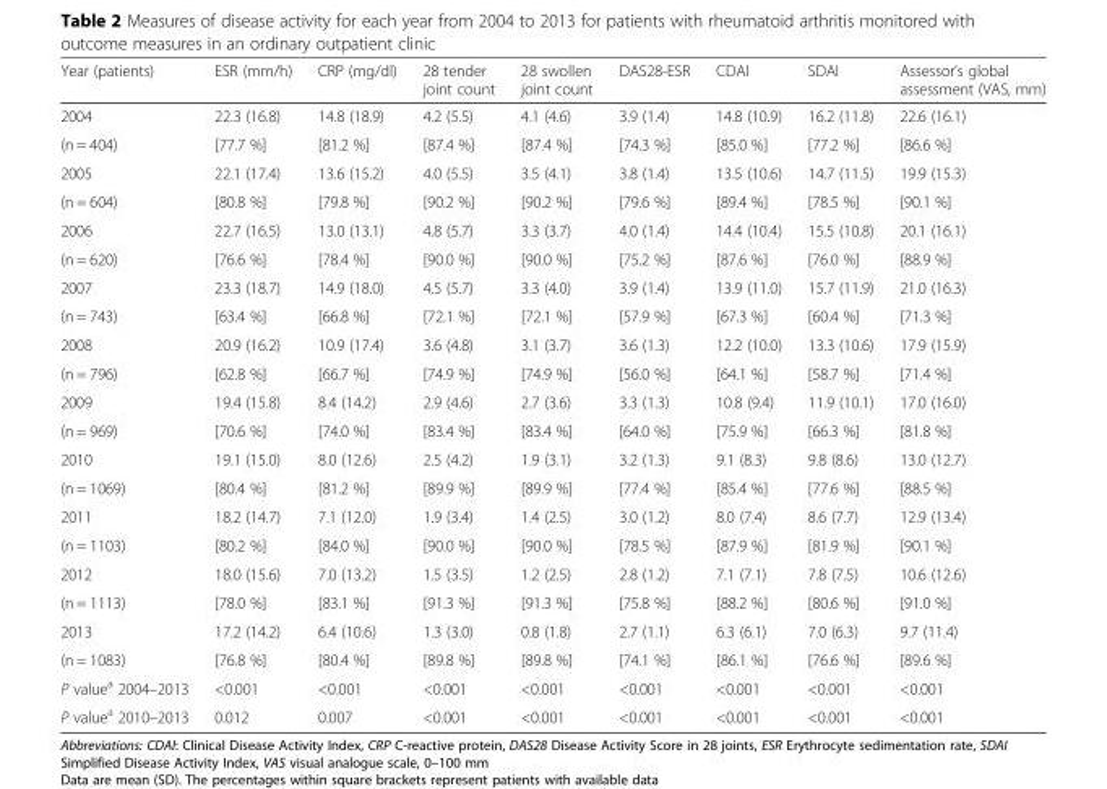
<table><thead><tr><td>Year (patients)</td><td>ESR (mm/h)</td><td>CRP (mg/dl)</td><td>28 tender joint count</td><td>28 swollen joint count</td><td>DAS28-ESR</td><td>CDAI</td><td>SDAI</td><td>Assessor’s global assessment (VAS, mm)</td></tr></thead><tbody><tr><td>2004</td><td>22.3 (16.8)</td><td>14.8 (18.9)</td><td>4.2 (5.5)</td><td>4.1 (4.6)</td><td>3.9 (1.4)</td><td>14.8 (10.9)</td><td>16.2 (11.8)</td><td>22.6 (16.1)</td></tr><tr><td>(n = 404)</td><td>[77.7 %]</td><td>[81.2 %]</td><td>[87.4 %]</td><td>[87.4 %]</td><td>[74.3 %]</td><td>[85.0 %]</td><td>[77.2 %]</td><td>[86.6 %]</td></tr><tr><td>2005</td><td>22.1 (17.4)</td><td>13.6 (15.2)</td><td>4.0 (5.5)</td><td>3.5 (4.1)</td><td>3.8 (1.4)</td><td>13.5 (10.6)</td><td>14.7 (11.5)</td><td>19.9 (15.3)</td></tr><tr><td>(n = 604)</td><td>[80.8 %]</td><td>[79.8 %]</td><td>[90.2 %]</td><td>[90.2 %]</td><td>[79.6 %]</td><td>[89.4 %]</td><td>[78.5 %]</td><td>[90.1 %]</td></tr><tr><td>2006</td><td>22.7 (16.5)</td><td>13.0 (13.1)</td><td>4.8 (5.7)</td><td>3.3 (3.7)</td><td>4.0 (1.4)</td><td>14.4 (10.4)</td><td>15.5 (10.8)</td><td>20.1 (16.1)</td></tr><tr><td>(n = 620)</td><td>[76.6 %]</td><td>[78.4 %]</td><td>[90.0 %]</td><td>[90.0 %]</td><td>[75.2 %]</td><td>[87.6 %]</td><td>[76.0 %]</td><td>[88.9 %]</td></tr><tr><td>2007</td><td>23.3 (18.7)</td><td>14.9 (18.0)</td><td>4.5 (5.7)</td><td>3.3 (4.0)</td><td>3.9 (1.4)</td><td>13.9 (11.0)</td><td>15.7 (11.9)</td><td>21.0 (16.3)</td></tr><tr><td>(n = 743)</td><td>[63.4 %]</td><td>[66.8 %]</td><td>[72.1 %]</td><td>[72.1 %]</td><td>[57.9 %]</td><td>[67.3 %]</td><td>[60.4 %]</td><td>[71.3 %]</td></tr><tr><td>2008</td><td>20.9 (16.2)</td><td>10.9 (17.4)</td><td>3.6 (4.8)</td><td>3.1 (3.7)</td><td>3.6 (1.3)</td><td>12.2 (10.0)</td><td>13.3 (10.6)</td><td>17.9 (15.9)</td></tr><tr><td>(n = 796)</td><td>[62.8 %]</td><td>[66.7 %]</td><td>[74.9 %]</td><td>[74.9 %]</td><td>[56.0 %]</td><td>[64.1 %]</td><td>[58.7 %]</td><td>[71.4 %]</td></tr><tr><td>2009</td><td>19.4 (15.8)</td><td>8.4 (14.2)</td><td>2.9 (4.6)</td><td>2.7 (3.6)</td><td>3.3 (1.3)</td><td>10.8 (9.4)</td><td>11.9 (10.1)</td><td>17.0 (16.0)</td></tr><tr><td>(n = 969)</td><td>[70.6 %]</td><td>[74.0 %]</td><td>[83.4 %]</td><td>[83.4 %]</td><td>[64.0 %]</td><td>[75.9 %]</td><td>[66.3 %]</td><td>[81.8 %]</td></tr><tr><td>2010</td><td>19.1 (15.0)</td><td>8.0 (12.6)</td><td>2.5 (4.2)</td><td>1.9 (3.1)</td><td>3.2 (1.3)</td><td>9.1 (8.3)</td><td>9.8 (8.6)</td><td>13.0 (12.7)</td></tr><tr><td>(n = 1069)</td><td>[80.4 %]</td><td>[81.2 %]</td><td>[89.9 %]</td><td>[89.9 %]</td><td>[77.4 %]</td><td>[85.4 %]</td><td>[77.6 %]</td><td>[88.5 %]</td></tr><tr><td>2011</td><td>18.2 (14.7)</td><td>7.1 (12.0)</td><td>1.9 (3.4)</td><td>1.4 (2.5)</td><td>3.0 (1.2)</td><td>8.0 (7.4)</td><td>8.6 (7.7)</td><td>12.9 (13.4)</td></tr><tr><td>(n = 1103)</td><td>[80.2 %]</td><td>[84.0 %]</td><td>[90.0 %]</td><td>[90.0 %]</td><td>[78.5 %]</td><td>[87.9 %]</td><td>[81.9 %]</td><td>[90.1 %]</td></tr><tr><td>2012</td><td>18.0 (15.6)</td><td>7.0 (13.2)</td><td>1.5 (3.5)</td><td>1.2 (2.5)</td><td>2.8 (1.2)</td><td>7.1 (7.1)</td><td>7.8 (7.5)</td><td>10.6 (12.6)</td></tr><tr><td>(n = 1113)</td><td>[78.0 %]</td><td>[83.1 %]</td><td>[91.3 %]</td><td>[91.3 %]</td><td>[75.8 %]</td><td>[88.2 %]</td><td>[80.6 %]</td><td>[91.0 %]</td></tr><tr><td>2013</td><td>17.2 (14.2)</td><td>6.4 (10.6)</td><td>1.3 (3.0)</td><td>0.8 (1.8)</td><td>2.7 (1.1)</td><td>6.3 (6.1)</td><td>7.0 (6.3)</td><td>9.7 (11.4)</td></tr><tr><td>(n = 1083)</td><td>[76.8 %]</td><td>[80.4 %]</td><td>[89.8 %]</td><td>[89.8 %]</td><td>[74.1 %]</td><td>[86.1 %]</td><td>[76.6 %]</td><td>[89.6 %]</td></tr><tr><td>P value<sup>a</sup> 2004–2013</td><td>&lt;0.001</td><td>&lt;0.001</td><td>&lt;0.001</td><td>&lt;0.001</td><td>&lt;0.001</td><td>&lt;0.001</td><td>&lt;0.001</td><td>&lt;0.001</td></tr><tr><td>P value<sup>a</sup> 2010–2013</td><td>0.012</td><td>0.007</td><td>&lt;0.001</td><td>&lt;0.001</td><td>&lt;0.001</td><td>&lt;0.001</td><td>&lt;0.001</td><td>&lt;0.001</td></tr></tbody></table>